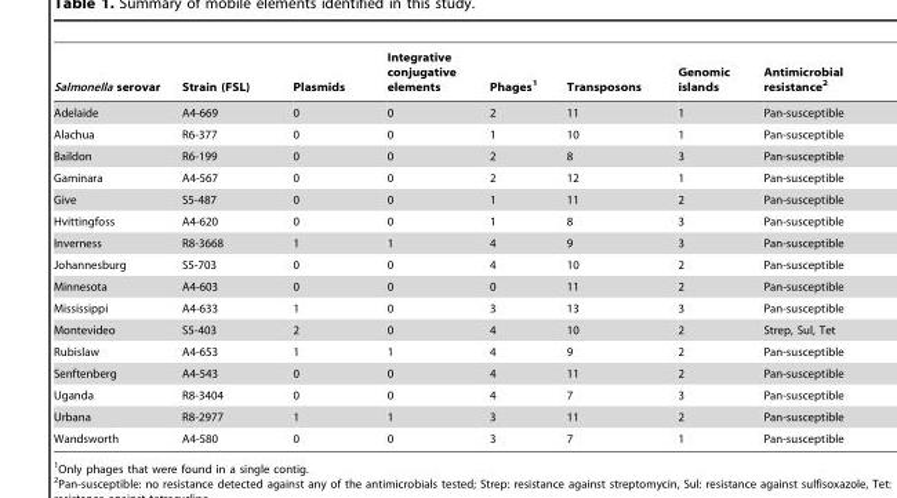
<table><thead><tr><td>Salmonella serovar</td><td>Strain (FSL)</td><td>Plasmids</td><td>Integrative conjugative elements</td><td>Phages<sup>1</sup></td><td>Transposons</td><td>Genomic islands</td><td>Antimicrobial resistance<sup>2</sup></td></tr></thead><tbody><tr><td>Adelaide</td><td>A4-669</td><td>0</td><td>0</td><td>2</td><td>11</td><td>1</td><td>Pan-susceptible</td></tr><tr><td>Alachua</td><td>R6-377</td><td>0</td><td>0</td><td>1</td><td>10</td><td>1</td><td>Pan-susceptible</td></tr><tr><td>Baildon</td><td>R6-199</td><td>0</td><td>0</td><td>2</td><td>8</td><td>3</td><td>Pan-susceptible</td></tr><tr><td>Gaminara</td><td>A4-567</td><td>0</td><td>0</td><td>2</td><td>12</td><td>1</td><td>Pan-susceptible</td></tr><tr><td>Give</td><td>S5-487</td><td>0</td><td>0</td><td>1</td><td>11</td><td>2</td><td>Pan-susceptible</td></tr><tr><td>Hvittingfoss</td><td>A4-620</td><td>0</td><td>0</td><td>1</td><td>8</td><td>3</td><td>Pan-susceptible</td></tr><tr><td>Inverness</td><td>R8-3668</td><td>1</td><td>1</td><td>4</td><td>9</td><td>3</td><td>Pan-susceptible</td></tr><tr><td>Johannesburg</td><td>S5-703</td><td>0</td><td>0</td><td>4</td><td>10</td><td>2</td><td>Pan-susceptible</td></tr><tr><td>Minnesota</td><td>A4-603</td><td>0</td><td>0</td><td>0</td><td>11</td><td>2</td><td>Pan-susceptible</td></tr><tr><td>Mississippi</td><td>A4-633</td><td>1</td><td>0</td><td>3</td><td>13</td><td>3</td><td>Pan-susceptible</td></tr><tr><td>Montevideo</td><td>S5-403</td><td>2</td><td>0</td><td>4</td><td>10</td><td>2</td><td>Strep, Sul, Tet</td></tr><tr><td>Rubislaw</td><td>A4-653</td><td>1</td><td>1</td><td>4</td><td>9</td><td>2</td><td>Pan-susceptible</td></tr><tr><td>Senftenberg</td><td>A4-543</td><td>0</td><td>0</td><td>4</td><td>11</td><td>2</td><td>Pan-susceptible</td></tr><tr><td>Uganda</td><td>R8-3404</td><td>0</td><td>0</td><td>4</td><td>7</td><td>3</td><td>Pan-susceptible</td></tr><tr><td>Urbana</td><td>R8-2977</td><td>1</td><td>1</td><td>3</td><td>11</td><td>2</td><td>Pan-susceptible</td></tr><tr><td>Wandsworth</td><td>A4-580</td><td>0</td><td>0</td><td>3</td><td>7</td><td>1</td><td>Pan-susceptible</td></tr></tbody></table>